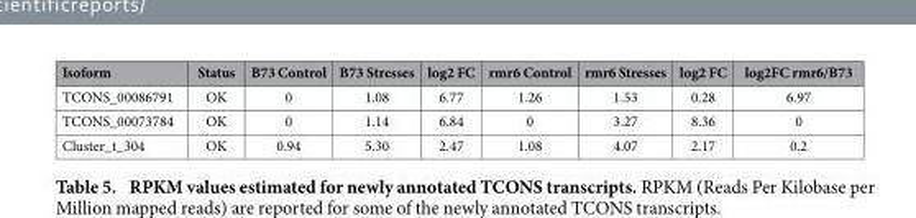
<table><thead><tr><td>Isoform</td><td>Status</td><td>B73 Control</td><td>B73 Stresses</td><td>log2 FC</td><td>rmr6 Control</td><td>rmr6 Stresses</td><td>log2 FC</td><td>log2FC rmr6/B73</td></tr></thead><tbody><tr><td>TCONS_00086791</td><td>OK</td><td>0</td><td>1.08</td><td>6.77</td><td>1.26</td><td>1.53</td><td>0.28</td><td>6.97</td></tr><tr><td>TCONS_00073784</td><td>OK</td><td>0</td><td>1.14</td><td>6.84</td><td>0</td><td>3.27</td><td>8.36</td><td>0</td></tr><tr><td>Cluster_t_304</td><td>OK</td><td>0.94</td><td>5.30</td><td>2.47</td><td>1.08</td><td>4.07</td><td>2.17</td><td>0.2</td></tr></tbody></table>